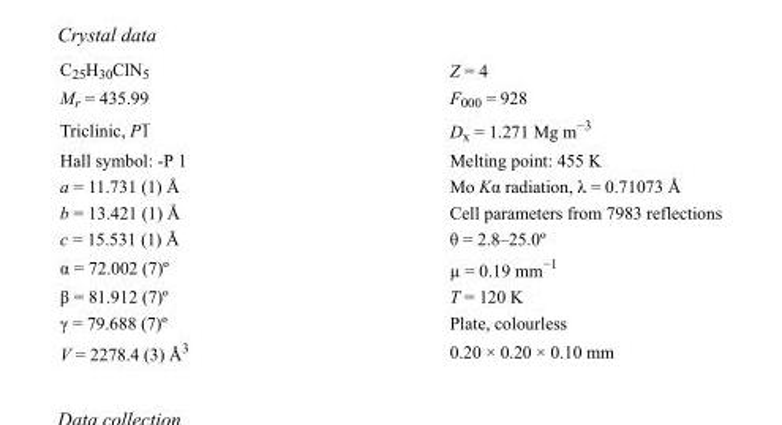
<table><tbody><tr><td>C<sub>25</sub>H<sub>30</sub>ClN<sub>5</sub></td><td>Z = 4</td></tr><tr><td>M<sub>r</sub> = 435.99</td><td>F000 = 928</td></tr><tr><td>Triclinic, P1</td><td>D<sub>x</sub> = 1.271 Mg m<sup>−3</sup></td></tr><tr><td>Hall symbol: -P 1</td><td>Melting point: 455 K</td></tr><tr><td>a = 11.731 (1) Å</td><td>Mo Kα radiation, λ = 0.71073 Å</td></tr><tr><td>b = 13.421 (1) Å</td><td>Cell parameters from 7983 reflections</td></tr><tr><td>c = 15.531 (1) Å</td><td>θ = 2.8–25.0º</td></tr><tr><td>α = 72.002 (7)º</td><td>µ = 0.19 mm<sup>−1</sup></td></tr><tr><td>β = 81.912 (7)º</td><td>T = 120 K</td></tr><tr><td>γ = 79.688 (7)º</td><td>Plate, colourless</td></tr><tr><td>V = 2278.4 (3) Å<sup>3</sup></td><td>0.20 × 0.20 × 0.10 mm</td></tr></tbody></table>